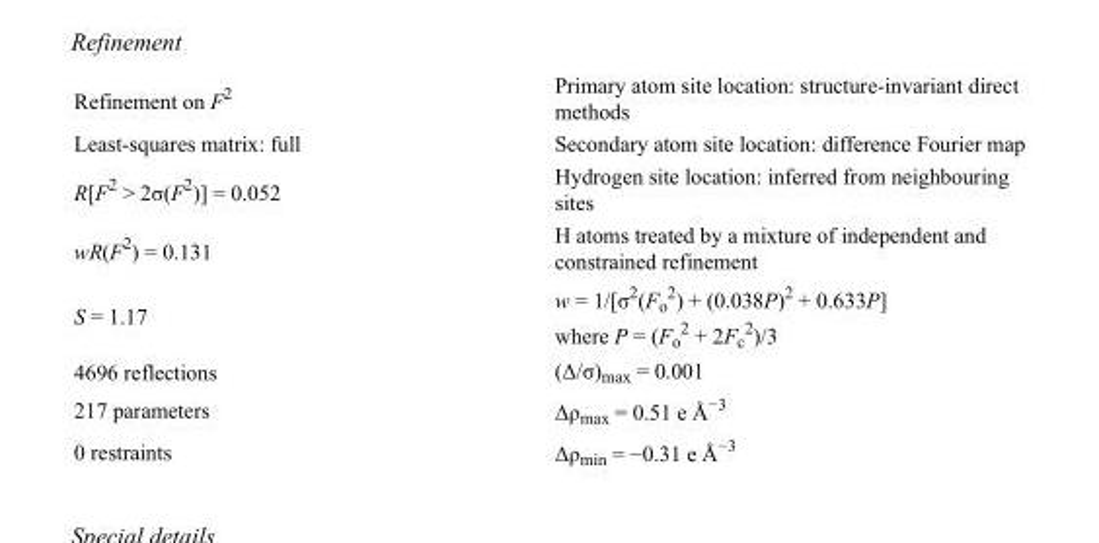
<table><tbody><tr><td>Refinement on F<sup>2</sup></td><td>Primary atom site location: structure-invariant direct methods</td></tr><tr><td>Least-squares matrix: full</td><td>Secondary atom site location: difference Fourier map</td></tr><tr><td>R[F<sup>2</sup> &gt; 2σ(F<sup>2</sup>)] = 0.052</td><td>Hydrogen site location: inferred from neighbouring sites</td></tr><tr><td>wR(F<sup>2</sup>) = 0.131</td><td>H atoms treated by a mixture of independent and constrained refinement</td></tr><tr><td>S = 1.17</td><td>w = 1/[σ<sup>2</sup>(F<sub>o</sub> <sup>2</sup>) + (0.038P)<sup>2</sup> + 0.633P] where P = (F<sub>o</sub> <sup>2</sup> + 2F<sub>c</sub> <sup>2</sup>)/3</td></tr><tr><td>4696 reflections</td><td>(Δ/σ)<sub>max</sub> = 0.001</td></tr><tr><td>217 parameters</td><td>Δρ<sub>max</sub> = 0.51 e Å<sup>−3</sup></td></tr><tr><td>0 restraints</td><td>Δρ<sub>min</sub> = −0.31 e Å<sup>−3</sup></td></tr></tbody></table>